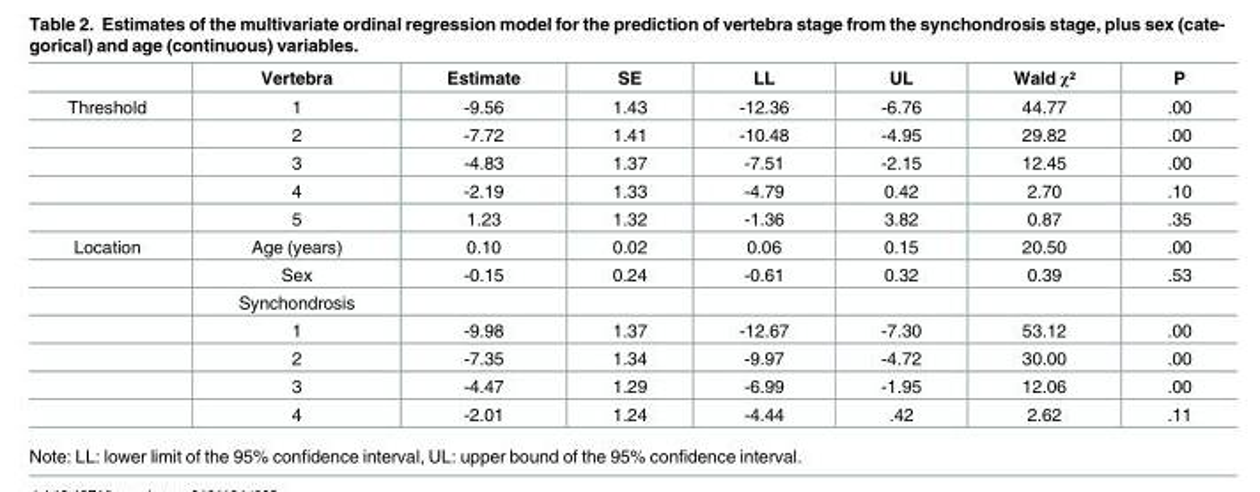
<table><thead><tr><td></td><td>Vertebra</td><td>Estimate</td><td>SE</td><td>LL</td><td>UL</td><td>Wald χ²</td><td>P</td></tr></thead><tbody><tr><td rowspan="5">Threshold</td><td>1</td><td>-9.56</td><td>1.43</td><td>-12.36</td><td>-6.76</td><td>44.77</td><td>.00</td></tr><tr><td>2</td><td>-7.72</td><td>1.41</td><td>-10.48</td><td>-4.95</td><td>29.82</td><td>.00</td></tr><tr><td>3</td><td>-4.83</td><td>1.37</td><td>-7.51</td><td>-2.15</td><td>12.45</td><td>.00</td></tr><tr><td>4</td><td>-2.19</td><td>1.33</td><td>-4.79</td><td>0.42</td><td>2.70</td><td>.10</td></tr><tr><td>5</td><td>1.23</td><td>1.32</td><td>-1.36</td><td>3.82</td><td>0.87</td><td>.35</td></tr><tr><td rowspan="7">Location</td><td>Age (years)</td><td>0.10</td><td>0.02</td><td>0.06</td><td>0.15</td><td>20.50</td><td>.00</td></tr><tr><td>Sex</td><td>-0.15</td><td>0.24</td><td>-0.61</td><td>0.32</td><td>0.39</td><td>.53</td></tr><tr><td>Synchondrosis</td><td></td><td></td><td></td><td></td><td></td><td></td></tr><tr><td>1</td><td>-9.98</td><td>1.37</td><td>-12.67</td><td>-7.30</td><td>53.12</td><td>.00</td></tr><tr><td>2</td><td>-7.35</td><td>1.34</td><td>-9.97</td><td>-4.72</td><td>30.00</td><td>.00</td></tr><tr><td>3</td><td>-4.47</td><td>1.29</td><td>-6.99</td><td>-1.95</td><td>12.06</td><td>.00</td></tr><tr><td>4</td><td>-2.01</td><td>1.24</td><td>-4.44</td><td>.42</td><td>2.62</td><td>.11</td></tr></tbody></table>